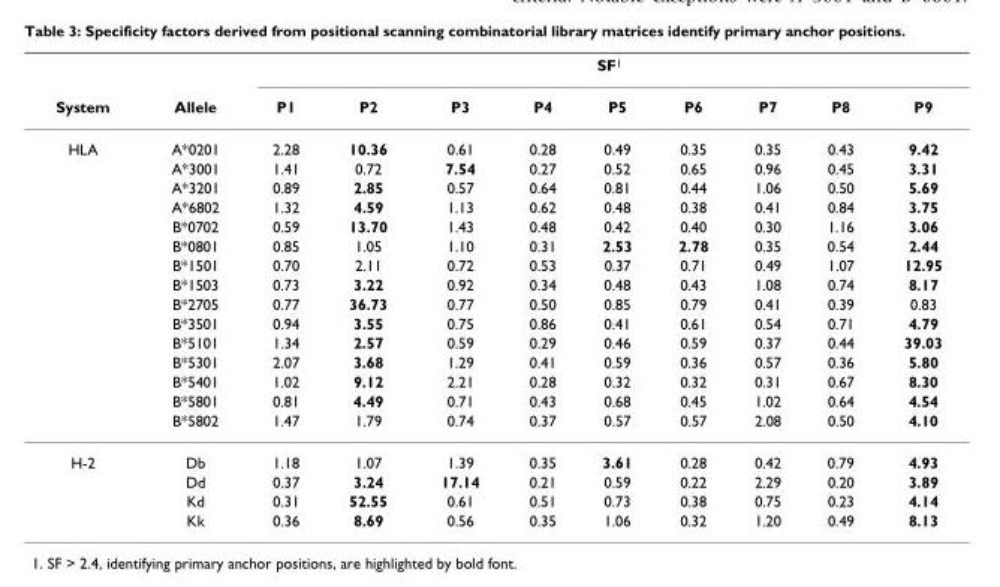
<table><thead><tr><td rowspan="2">System</td><td rowspan="2">Allele</td><td colspan="9">SF<sup>1</sup></td></tr><tr><td>P1</td><td>P2</td><td>P3</td><td>P4</td><td>P5</td><td>P6</td><td>P7</td><td>P8</td><td>P9</td></tr></thead><tbody><tr><td rowspan="15">HLA</td><td>A*0201</td><td>2.28</td><td>10.36</td><td>0.61</td><td>0.28</td><td>0.49</td><td>0.35</td><td>0.35</td><td>0.43</td><td>9.42</td></tr><tr><td>A*3001</td><td>1.41</td><td>0.72</td><td>7.54</td><td>0.27</td><td>0.52</td><td>0.65</td><td>0.96</td><td>0.45</td><td>3.31</td></tr><tr><td>A*3201</td><td>0.89</td><td>2.85</td><td>0.57</td><td>0.64</td><td>0.81</td><td>0.44</td><td>1.06</td><td>0.50</td><td>5.69</td></tr><tr><td>A*6802</td><td>1.32</td><td>4.59</td><td>1.13</td><td>0.62</td><td>0.48</td><td>0.38</td><td>0.41</td><td>0.84</td><td>3.75</td></tr><tr><td>B*0702</td><td>0.59</td><td>13.70</td><td>1.43</td><td>0.48</td><td>0.42</td><td>0.40</td><td>0.30</td><td>1.16</td><td>3.06</td></tr><tr><td>B*0801</td><td>0.85</td><td>1.05</td><td>1.10</td><td>0.31</td><td>2.53</td><td>2.78</td><td>0.35</td><td>0.54</td><td>2.44</td></tr><tr><td>B*1501</td><td>0.70</td><td>2.11</td><td>0.72</td><td>0.53</td><td>0.37</td><td>0.71</td><td>0.49</td><td>1.07</td><td>12.95</td></tr><tr><td>B*1503</td><td>0.73</td><td>3.22</td><td>0.92</td><td>0.34</td><td>0.48</td><td>0.43</td><td>1.08</td><td>0.74</td><td>8.17</td></tr><tr><td>B*2705</td><td>0.77</td><td>36.73</td><td>0.77</td><td>0.50</td><td>0.85</td><td>0.79</td><td>0.41</td><td>0.39</td><td>0.83</td></tr><tr><td>B*3501</td><td>0.94</td><td>3.55</td><td>0.75</td><td>0.86</td><td>0.41</td><td>0.61</td><td>0.54</td><td>0.71</td><td>4.79</td></tr><tr><td>B*5101</td><td>1.34</td><td>2.57</td><td>0.59</td><td>0.29</td><td>0.46</td><td>0.59</td><td>0.37</td><td>0.44</td><td>39.03</td></tr><tr><td>B*5301</td><td>2.07</td><td>3.68</td><td>1.29</td><td>0.41</td><td>0.59</td><td>0.36</td><td>0.57</td><td>0.36</td><td>5.80</td></tr><tr><td>B*5401</td><td>1.02</td><td>9.12</td><td>2.21</td><td>0.28</td><td>0.32</td><td>0.32</td><td>0.31</td><td>0.67</td><td>8.30</td></tr><tr><td>B*5801</td><td>0.81</td><td>4.49</td><td>0.71</td><td>0.43</td><td>0.68</td><td>0.45</td><td>1.02</td><td>0.64</td><td>4.54</td></tr><tr><td>B*5802</td><td>1.47</td><td>1.79</td><td>0.74</td><td>0.37</td><td>0.57</td><td>0.57</td><td>2.08</td><td>0.50</td><td>4.10</td></tr><tr><td rowspan="4">H-2</td><td>Db</td><td>1.18</td><td>1.07</td><td>1.39</td><td>0.35</td><td>3.61</td><td>0.28</td><td>0.42</td><td>0.79</td><td>4.93</td></tr><tr><td>Dd</td><td>0.37</td><td>3.24</td><td>17.14</td><td>0.21</td><td>0.59</td><td>0.22</td><td>2.29</td><td>0.20</td><td>3.89</td></tr><tr><td>Kd</td><td>0.31</td><td>52.55</td><td>0.61</td><td>0.51</td><td>0.73</td><td>0.38</td><td>0.75</td><td>0.23</td><td>4.14</td></tr><tr><td>Kk</td><td>0.36</td><td>8.69</td><td>0.56</td><td>0.35</td><td>1.06</td><td>0.32</td><td>1.20</td><td>0.49</td><td>8.13</td></tr></tbody></table>